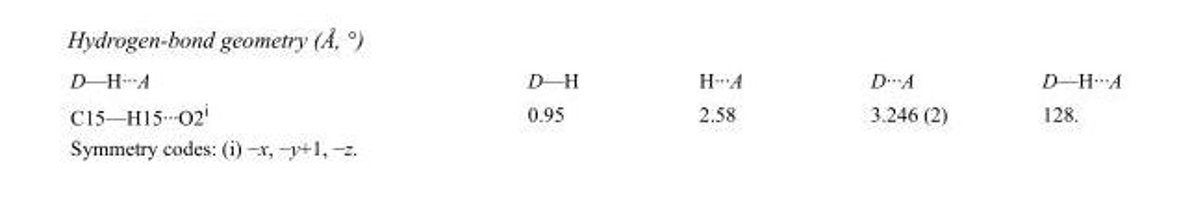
<table><tbody><tr><td>D—H···A</td><td>D—H</td><td>H···A</td><td>D···A</td><td>D—H···A</td></tr><tr><td>C15—H15···O2<sup>i</sup></td><td>0.95</td><td>2.58</td><td>3.246 (2)</td><td>128.</td></tr></tbody></table>